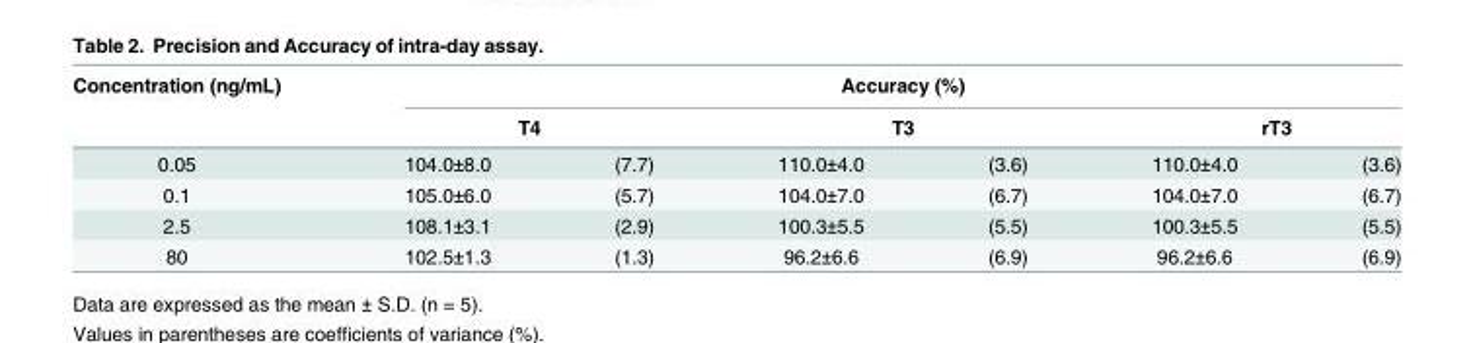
<table><thead><tr><td rowspan="3">Concentration (ng/mL) 0.05</td><td colspan="6">Accuracy (%)</td></tr><tr><td colspan="2">T4</td><td colspan="2">T3</td><td colspan="2">rT3</td></tr><tr><td>104.0±8.0</td><td>(7.7)</td><td>110.0±4.0</td><td>(3.6)</td><td>110.0±4.0</td><td>(3.6)</td></tr></thead><tbody><tr><td>0.1</td><td>105.0±6.0</td><td>(5.7)</td><td>104.0±7.0</td><td>(6.7)</td><td>104.0±7.0</td><td>(6.7)</td></tr><tr><td>2.5</td><td>108.1±3.1</td><td>(2.9)</td><td>100.3±5.5</td><td>(5.5)</td><td>100.3±5.5</td><td>(5.5)</td></tr><tr><td>80</td><td>102.5±1.3</td><td>(1.3)</td><td>96.2±6.6</td><td>(6.9)</td><td>96.2±6.6</td><td>(6.9)</td></tr></tbody></table>